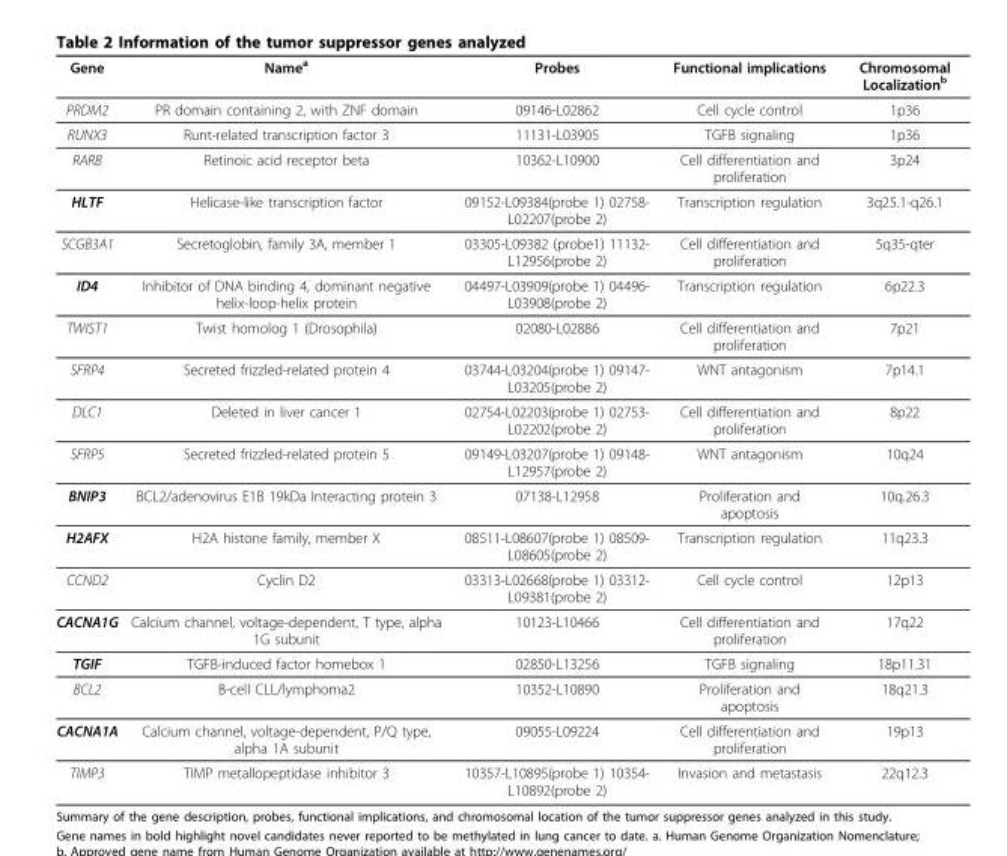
<table><thead><tr><td>Gene</td><td>Name<sup>a</sup></td><td>Probes</td><td>Functional implications</td><td>Chromosomal Localization<sup>b</sup></td></tr></thead><tbody><tr><td>PRDM2</td><td>PR domain containing 2, with ZNF domain</td><td>09146-L02862</td><td>Cell cycle control</td><td>1p36</td></tr><tr><td>RUNX3</td><td>Runt-related transcription factor 3</td><td>11131-L03905</td><td>TGFB signaling</td><td>1p36</td></tr><tr><td>RARB</td><td>Retinoic acid receptor beta</td><td>10362-L10900</td><td>Cell differentiation and proliferation</td><td>3p24</td></tr><tr><td>HLTF</td><td>Helicase-like transcription factor</td><td>09152-L09384(probe 1) 02758- L02207(probe 2)</td><td>Transcription regulation</td><td>3q25.1-q26.1</td></tr><tr><td>SCGB3A1</td><td>Secretoglobin, family 3A, member 1</td><td>03305-L09382 (probe1) 11132- L12956(probe 2)</td><td>Cell differentiation and proliferation</td><td>5q35-qter</td></tr><tr><td>ID4</td><td>Inhibitor of DNA binding 4, dominant negative helix-loop-helix protein</td><td>04497-L03909(probe 1) 04496- L03908(probe 2)</td><td>Transcription regulation</td><td>6p22.3</td></tr><tr><td>TWIST1</td><td>Twist homolog 1 (Drosophila)</td><td>02080-L02886</td><td>Cell differentiation and proliferation</td><td>7p21</td></tr><tr><td>SFRP4</td><td>Secreted frizzled-related protein 4</td><td>03744-L03204(probe 1) 09147- L03205(probe 2)</td><td>WNT antagonism</td><td>7p14.1</td></tr><tr><td>DLC1</td><td>Deleted in liver cancer 1</td><td>02754-L02203(probe 1) 02753- L02202(probe 2)</td><td>Cell differentiation and proliferation</td><td>8p22</td></tr><tr><td>SFRP5</td><td>Secreted frizzled-related protein 5</td><td>09149-L03207(probe 1) 09148- L12957(probe 2)</td><td>WNT antagonism</td><td>10q24</td></tr><tr><td>BNIP3</td><td>BCL2/adenovirus E1B 19kDa Interacting protein 3</td><td>07138-L12958</td><td>Proliferation and apoptosis</td><td>10q.26.3</td></tr><tr><td>H2AFX</td><td>H2A histone family, member X</td><td>08511-L08607(probe 1) 08509- L08605(probe 2)</td><td>Transcription regulation</td><td>11q23.3</td></tr><tr><td>CCND2</td><td>Cyclin D2</td><td>03313-L02668(probe 1) 03312- L09381(probe 2)</td><td>Cell cycle control</td><td>12p13</td></tr><tr><td>CACNA1G</td><td>Calcium channel, voltage-dependent, T type, alpha 1G subunit</td><td>10123-L10466</td><td>Cell differentiation and proliferation</td><td>17q22</td></tr><tr><td>TGIF</td><td>TGFB-induced factor homebox 1</td><td>02850-L13256</td><td>TGFB signaling</td><td>18p11.31</td></tr><tr><td>BCL2</td><td>B-cell CLL/lymphoma2</td><td>10352-L10890</td><td>Proliferation and apoptosis</td><td>18q21.3</td></tr><tr><td>CACNA1A</td><td>Calcium channel, voltage-dependent, P/Q type, alpha 1A subunit</td><td>09055-L09224</td><td>Cell differentiation and proliferation</td><td>19p13</td></tr><tr><td>TIMP3</td><td>TIMP metallopeptidase inhibitor 3</td><td>10357-L10895(probe 1) 10354- L10892(probe 2)</td><td>Invasion and metastasis</td><td>22q12.3</td></tr></tbody></table>